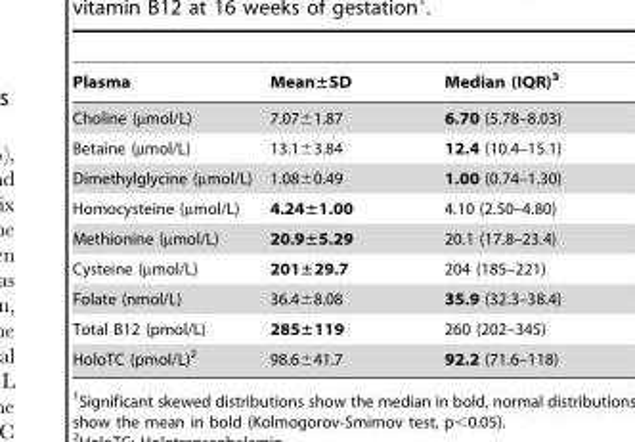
<table><thead><tr><td>Plasma</td><td>Mean±SD</td><td>Median (IQR)<sup>3</sup></td></tr></thead><tbody><tr><td>Choline (µmol/L)</td><td>7.07±1.87</td><td>6.70 (5.78–8.03)</td></tr><tr><td>Betaine (µmol/L)</td><td>13.1±3.84</td><td>12.4 (10.4–15.1)</td></tr><tr><td>Dimethylglycine (µmol/L)</td><td>1.08±0.49</td><td>1.00 (0.74–1.30)</td></tr><tr><td>Homocysteine (µmol/L)</td><td>4.24±1.00</td><td>4.10 (2.50–4.80)</td></tr><tr><td>Methionine (µmol/L)</td><td>20.9±5.29</td><td>20.1 (17.8–23.4)</td></tr><tr><td>Cysteine (µmol/L)</td><td>201±29.7</td><td>204 (185–221)</td></tr><tr><td>Folate (nmol/L)</td><td>36.4±8.08</td><td>35.9 (32.3–38.4)</td></tr><tr><td>Total B12 (pmol/L)</td><td>285±119</td><td>260 (202–345)</td></tr><tr><td>HoloTC (pmol/L)<sup>2</sup></td><td>98.6±41.7</td><td>92.2 (71.6–118)</td></tr></tbody></table>